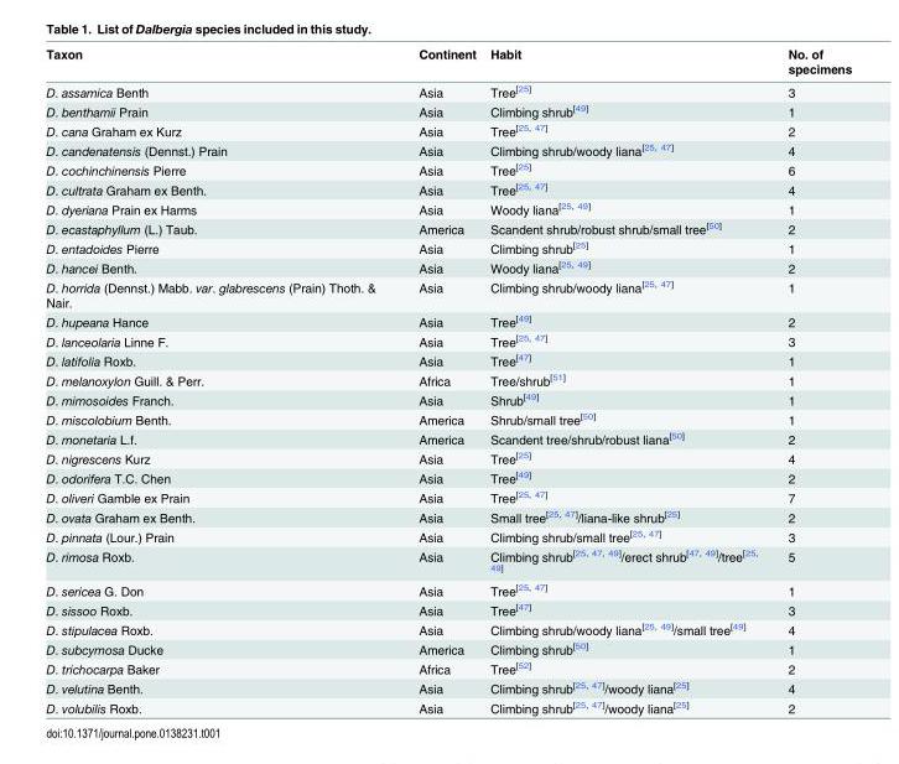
<table><thead><tr><td>Taxon</td><td>Continent</td><td>Habit</td><td>No. of specimens</td></tr></thead><tbody><tr><td>D. assamica Benth</td><td>Asia</td><td>Tree<sup>[25]</sup></td><td>3</td></tr><tr><td>D. benthamii Prain</td><td>Asia</td><td>Climbing shrub<sup>[49]</sup></td><td>1</td></tr><tr><td>D. cana Graham ex Kurz</td><td>Asia</td><td>Tree<sup>[25, 47]</sup></td><td>2</td></tr><tr><td>D. candenatensis (Dennst.) Prain</td><td>Asia</td><td>Climbing shrub/woody liana<sup>[25, 47]</sup></td><td>4</td></tr><tr><td>D. cochinchinensis Pierre</td><td>Asia</td><td>Tree<sup>[25]</sup></td><td>6</td></tr><tr><td>D. cultrata Graham ex Benth.</td><td>Asia</td><td>Tree<sup>[25, 47]</sup></td><td>4</td></tr><tr><td>D. dyeriana Prain ex Harms</td><td>Asia</td><td>Woody liana<sup>[25, 49]</sup></td><td>1</td></tr><tr><td>D. ecastaphyllum (L.) Taub.</td><td>America</td><td>Scandent shrub/robust shrub/small tree<sup>[50]</sup></td><td>2</td></tr><tr><td>D. entadoides Pierre</td><td>Asia</td><td>Climbing shrub<sup>[25]</sup></td><td>1</td></tr><tr><td>D. hancei Benth.</td><td>Asia</td><td>Woody liana<sup>[25, 49]</sup></td><td>2</td></tr><tr><td>D. horrida (Dennst.) Mabb. var. glabrescens (Prain) Thoth. &amp; Nair.</td><td>Asia</td><td>Climbing shrub/woody liana<sup>[25, 47]</sup></td><td>1</td></tr><tr><td>D. hupeana Hance</td><td>Asia</td><td>Tree<sup>[49]</sup></td><td>2</td></tr><tr><td>D. lanceolaria Linne F.</td><td>Asia</td><td>Tree<sup>[25, 47]</sup></td><td>3</td></tr><tr><td>D. latifolia Roxb.</td><td>Asia</td><td>Tree<sup>[47]</sup></td><td>1</td></tr><tr><td>D. melanoxylon Guill. &amp; Perr.</td><td>Africa</td><td>Tree/shrub<sup>[51]</sup></td><td>1</td></tr><tr><td>D. mimosoides Franch.</td><td>Asia</td><td>Shrub<sup>[49]</sup></td><td>1</td></tr><tr><td>D. miscolobium Benth.</td><td>America</td><td>Shrub/small tree<sup>[50]</sup></td><td>1</td></tr><tr><td>D. monetaria L.f.</td><td>America</td><td>Scandent tree/shrub/robust liana<sup>[50]</sup></td><td>2</td></tr><tr><td>D. nigrescens Kurz</td><td>Asia</td><td>Tree<sup>[25]</sup></td><td>4</td></tr><tr><td>D. odorifera T.C. Chen</td><td>Asia</td><td>Tree<sup>[49]</sup></td><td>2</td></tr><tr><td>D. oliveri Gamble ex Prain</td><td>Asia</td><td>Tree<sup>[25, 47]</sup></td><td>7</td></tr><tr><td>D. ovata Graham ex Benth.</td><td>Asia</td><td>Small tree<sup>[25, 47]</sup>/liana-like shrub<sup>[25]</sup></td><td>2</td></tr><tr><td>D. pinnata (Lour.) Prain</td><td>Asia</td><td>Climbing shrub/small tree<sup>[25, 47]</sup></td><td>3</td></tr><tr><td>D. rimosa Roxb.</td><td>Asia</td><td>Climbing shrub<sup>[25, 47, 49]</sup>/erect shrub<sup>[47, 49]</sup>/tree<sup>[25, 49]</sup></td><td>5</td></tr><tr><td>D. sericea G. Don</td><td>Asia</td><td>Tree<sup>[25, 47]</sup></td><td>1</td></tr><tr><td>D. sissoo Roxb.</td><td>Asia</td><td>Tree<sup>[47]</sup></td><td>3</td></tr><tr><td>D. stipulacea Roxb.</td><td>Asia</td><td>Climbing shrub/woody liana<sup>[25, 49]</sup>/small tree<sup>[49]</sup></td><td>4</td></tr><tr><td>D. subcymosa Ducke</td><td>America</td><td>Climbing shrub<sup>[50]</sup></td><td>1</td></tr><tr><td>D. trichocarpa Baker</td><td>Africa</td><td>Tree<sup>[52]</sup></td><td>2</td></tr><tr><td>D. velutina Benth.</td><td>Asia</td><td>Climbing shrub<sup>[25, 47]</sup>/woody liana<sup>[25]</sup></td><td>4</td></tr><tr><td>D. volubilis Roxb.</td><td>Asia</td><td>Climbing shrub<sup>[25, 47]</sup>/woody liana<sup>[25]</sup></td><td>2</td></tr></tbody></table>